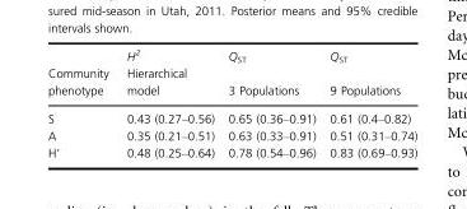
<table><thead><tr><td rowspan="2">Community phenotype</td><td rowspan="2">H<sup>2</sup> Hierarchical model</td><td rowspan="2">Q<sub>ST</sub> 3 Populations</td><td rowspan="2">Q<sub>ST</sub> 9 Populations</td></tr><tr></tr></thead><tbody><tr><td>S</td><td>0.43 (0.27–0.56)</td><td>0.65 (0.36–0.91)</td><td>0.61 (0.4–0.82)</td></tr><tr><td>A</td><td>0.35 (0.21–0.51)</td><td>0.63 (0.33–0.91)</td><td>0.51 (0.31–0.74)</td></tr><tr><td>H’</td><td>0.48 (0.25–0.64)</td><td>0.78 (0.54–0.96)</td><td>0.83 (0.69–0.93)</td></tr></tbody></table>